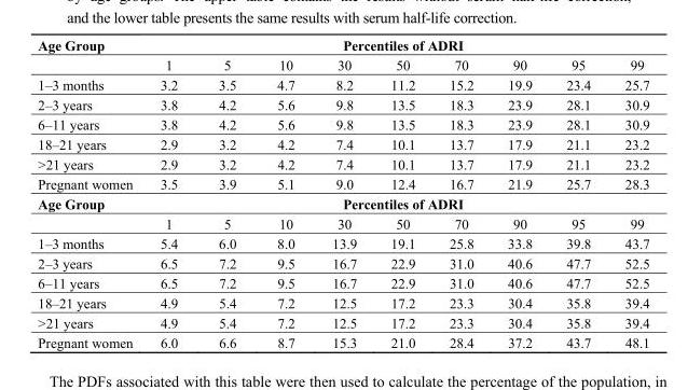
<table><tbody><tr><td rowspan="2">Age Group</td><td colspan="9">Percentiles of ADRI</td></tr><tr><td>1</td><td>5</td><td>10</td><td>30</td><td>50</td><td>70</td><td>90</td><td>95</td><td>99</td></tr><tr><td>1–3 months</td><td>3.2</td><td>3.5</td><td>4.7</td><td>8.2</td><td>11.2</td><td>15.2</td><td>19.9</td><td>23.4</td><td>25.7</td></tr><tr><td>2–3 years</td><td>3.8</td><td>4.2</td><td>5.6</td><td>9.8</td><td>13.5</td><td>18.3</td><td>23.9</td><td>28.1</td><td>30.9</td></tr><tr><td>6–11 years</td><td>3.8</td><td>4.2</td><td>5.6</td><td>9.8</td><td>13.5</td><td>18.3</td><td>23.9</td><td>28.1</td><td>30.9</td></tr><tr><td>18–21 years</td><td>2.9</td><td>3.2</td><td>4.2</td><td>7.4</td><td>10.1</td><td>13.7</td><td>17.9</td><td>21.1</td><td>23.2</td></tr><tr><td>&gt;21 years</td><td>2.9</td><td>3.2</td><td>4.2</td><td>7.4</td><td>10.1</td><td>13.7</td><td>17.9</td><td>21.1</td><td>23.2</td></tr><tr><td>Pregnant women</td><td>3.5</td><td>3.9</td><td>5.1</td><td>9.0</td><td>12.4</td><td>16.7</td><td>21.9</td><td>25.7</td><td>28.3</td></tr><tr><td rowspan="2">Age Group</td><td colspan="9">Percentiles of ADRI</td></tr><tr><td>1</td><td>5</td><td>10</td><td>30</td><td>50</td><td>70</td><td>90</td><td>95</td><td>99</td></tr><tr><td>1–3 months</td><td>5.4</td><td>6.0</td><td>8.0</td><td>13.9</td><td>19.1</td><td>25.8</td><td>33.8</td><td>39.8</td><td>43.7</td></tr><tr><td>2–3 years</td><td>6.5</td><td>7.2</td><td>9.5</td><td>16.7</td><td>22.9</td><td>31.0</td><td>40.6</td><td>47.7</td><td>52.5</td></tr><tr><td>6–11 years</td><td>6.5</td><td>7.2</td><td>9.5</td><td>16.7</td><td>22.9</td><td>31.0</td><td>40.6</td><td>47.7</td><td>52.5</td></tr><tr><td>18–21 years</td><td>4.9</td><td>5.4</td><td>7.2</td><td>12.5</td><td>17.2</td><td>23.3</td><td>30.4</td><td>35.8</td><td>39.4</td></tr><tr><td>&gt;21 years</td><td>4.9</td><td>5.4</td><td>7.2</td><td>12.5</td><td>17.2</td><td>23.3</td><td>30.4</td><td>35.8</td><td>39.4</td></tr><tr><td>Pregnant women</td><td>6.0</td><td>6.6</td><td>8.7</td><td>15.3</td><td>21.0</td><td>28.4</td><td>37.2</td><td>43.7</td><td>48.1</td></tr></tbody></table>